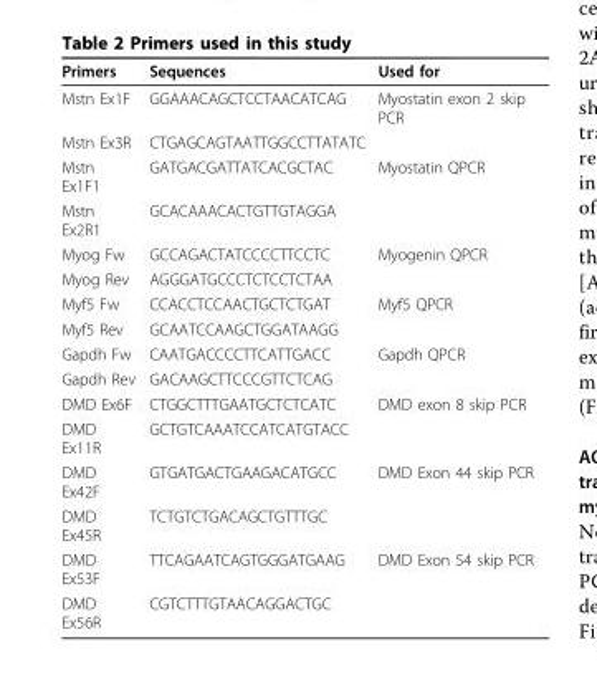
<table><thead><tr><td>Primers</td><td>Sequences</td><td>Used for</td></tr></thead><tbody><tr><td>Mstn Ex1F</td><td>GGAAACAGCTCCTAACATCAG</td><td>Myostatin exon 2 skip PCR</td></tr><tr><td>Mstn Ex3R</td><td>CTGAGCAGTAATTGGCCTTATATC</td><td></td></tr><tr><td>Mstn Ex1F1</td><td>GATGACGATTATCACGCTAC</td><td>Myostatin QPCR</td></tr><tr><td>Mstn Ex2R1</td><td>GCACAAACACTGTTGTAGGA</td><td></td></tr><tr><td>Myog Fw</td><td>GCCAGACTATCCCCTTCCTC</td><td>Myogenin QPCR</td></tr><tr><td>Myog Rev</td><td>AGGGATGCCCTCTCCTCTAA</td><td></td></tr><tr><td>Myf5 Fw</td><td>CCACCTCCAACTGCTCTGAT</td><td>Myf5 QPCR</td></tr><tr><td>Myf5 Rev</td><td>GCAATCCAAGCTGGATAAGG</td><td></td></tr><tr><td>Gapdh Fw</td><td>CAATGACCCCTTCATTGACC</td><td>Gapdh QPCR</td></tr><tr><td>Gapdh Rev</td><td>GACAAGCTTCCCGTTCTCAG</td><td></td></tr><tr><td>DMD Ex6F</td><td>CTGGCTTTGAATGCTCTCATC</td><td>DMD exon 8 skip PCR</td></tr><tr><td>DMD Ex11R</td><td>GCTGTCAAATCCATCATGTACC</td><td></td></tr><tr><td>DMD Ex42F</td><td>GTGATGACTGAAGACATGCC</td><td>DMD Exon 44 skip PCR</td></tr><tr><td>DMD Ex45R</td><td>TCTGTCTGACAGCTGTTTGC</td><td></td></tr><tr><td>DMD Ex53F</td><td>TTCAGAATCAGTGGGATGAAG</td><td>DMD Exon 54 skip PCR</td></tr><tr><td>DMD Ex56R</td><td>CGTCTTTGTAACAGGACTGC</td><td></td></tr></tbody></table>